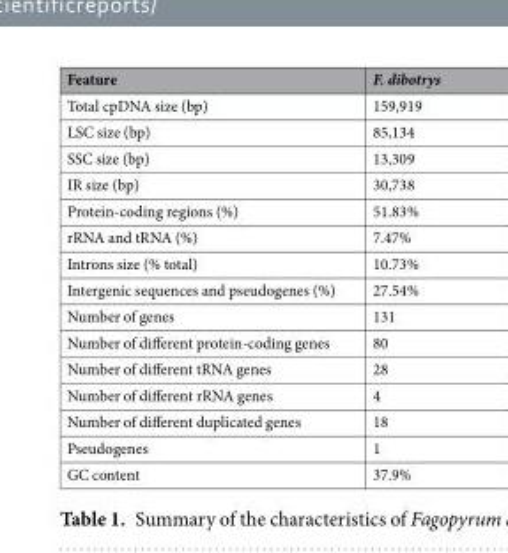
<table><thead><tr><td>Feature</td><td>F. dibotrys</td></tr></thead><tbody><tr><td>Total cpDNA size (bp)</td><td>159,919</td></tr><tr><td>LSC size (bp)</td><td>85,134</td></tr><tr><td>SSC size (bp)</td><td>13,309</td></tr><tr><td>IR size (bp)</td><td>30,738</td></tr><tr><td>Protein-coding regions (%)</td><td>51.83%</td></tr><tr><td>rRNA and tRNA (%)</td><td>7.47%</td></tr><tr><td>Introns size (% total)</td><td>10.73%</td></tr><tr><td>Intergenic sequences and pseudogenes (%)</td><td>27.54%</td></tr><tr><td>Number of genes</td><td>131</td></tr><tr><td>Number of different protein-coding genes</td><td>80</td></tr><tr><td>Number of different tRNA genes</td><td>28</td></tr><tr><td>Number of different rRNA genes</td><td>4</td></tr><tr><td>Number of different duplicated genes</td><td>18</td></tr><tr><td>Pseudogenes</td><td>1</td></tr><tr><td>GC content</td><td>37.9%</td></tr></tbody></table>